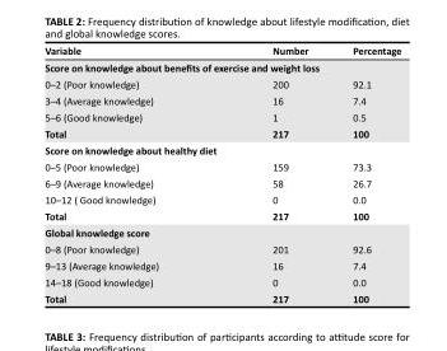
<table><thead><tr><td>Variable</td><td>Number</td><td>Percentage</td></tr></thead><tbody><tr><td colspan="3">Score on knowledge about benefits of exercise and weight loss</td></tr><tr><td>0–2 (Poor knowledge)</td><td>200</td><td>92.1</td></tr><tr><td>3–4 (Average knowledge)</td><td>16</td><td>7.4</td></tr><tr><td>5–6 (Good knowledge)</td><td>1</td><td>0.5</td></tr><tr><td>Total</td><td>217</td><td>100</td></tr><tr><td colspan="3">Score on knowledge about healthy diet</td></tr><tr><td>0–5 (Poor knowledge)</td><td>159</td><td>73.3</td></tr><tr><td>6–9 (Average knowledge)</td><td>58</td><td>26.7</td></tr><tr><td>10–12 ( Good knowledge)</td><td>0</td><td>0.0</td></tr><tr><td>Total</td><td>217</td><td>100</td></tr><tr><td colspan="3">Global knowledge score</td></tr><tr><td>0–8 (Poor knowledge)</td><td>201</td><td>92.6</td></tr><tr><td>9–13 (Average knowledge)</td><td>16</td><td>7.4</td></tr><tr><td>14–18 (Good knowledge)</td><td>0</td><td>0.0</td></tr><tr><td>Total</td><td>217</td><td>100</td></tr></tbody></table>